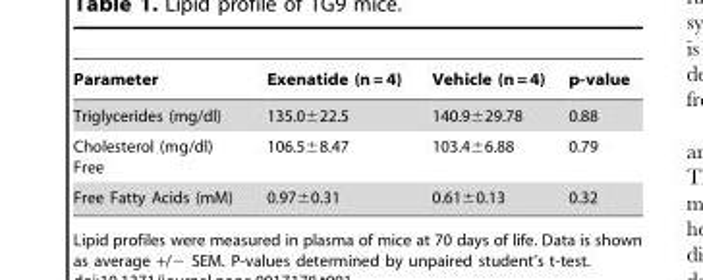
<table><thead><tr><td>Parameter</td><td>Exenatide (n = 4)</td><td>Vehicle (n = 4)</td><td>p-value</td></tr></thead><tbody><tr><td>Triglycerides (mg/dl)</td><td>135.0±22.5</td><td>140.9±29.78</td><td>0.88</td></tr><tr><td>Cholesterol (mg/dl) Free</td><td>106.5±8.47</td><td>103.4±6.88</td><td>0.79</td></tr><tr><td>Free Fatty Acids (mM)</td><td>0.97±0.31</td><td>0.61±0.13</td><td>0.32</td></tr></tbody></table>